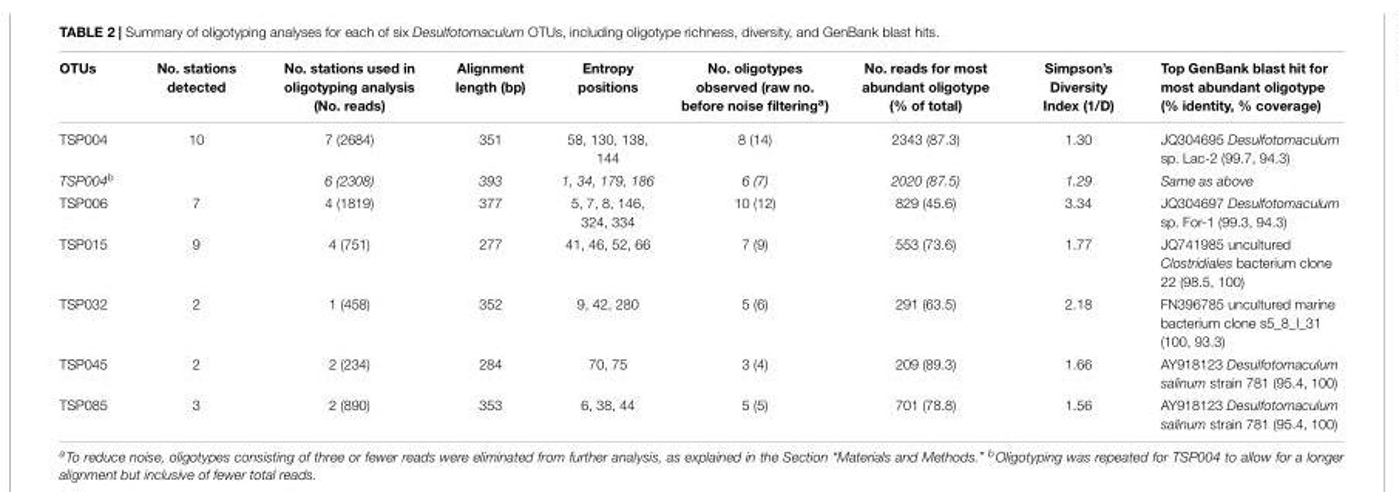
<table><thead><tr><td>OTUs</td><td>No. stations detected</td><td>No. stations used in oligotyping analysis (No. reads)</td><td>Alignment length (bp)</td><td>Entropy positions</td><td>No. oligotypes observed (raw no. before noise filtering<sup>a</sup>)</td><td>No. reads for most abundant oligotype (% of total)</td><td>Simpson’s Diversity Index (1/D)</td><td>Top GenBank blast hit for most abundant oligotype (% identity, % coverage)</td></tr></thead><tbody><tr><td>TSP004</td><td>10</td><td>7 (2684)</td><td>351</td><td>58, 130, 138, 144</td><td>8 (14)</td><td>2343 (87.3)</td><td>1.30</td><td>JQ304695 Desulfotomaculum sp. Lac-2 (99.7, 94.3)</td></tr><tr><td>TSP004<sup>b</sup></td><td></td><td>6 (2308)</td><td>393</td><td>1, 34, 179, 186</td><td>6 (7)</td><td>2020 (87.5)</td><td>1.29</td><td>Same as above</td></tr><tr><td>TSP006</td><td>7</td><td>4 (1819)</td><td>377</td><td>5, 7, 8, 146, 324, 334</td><td>10 (12)</td><td>829 (45.6)</td><td>3.34</td><td>JQ304697 Desulfotomaculum sp. For-1 (99.3, 94.3)</td></tr><tr><td>TSP015</td><td>9</td><td>4 (751)</td><td>277</td><td>41, 46, 52, 66</td><td>7 (9)</td><td>553 (73.6)</td><td>1.77</td><td>JQ741985 uncultured Clostridiales bacterium clone 22 (98.5, 100)</td></tr><tr><td>TSP032</td><td>2</td><td>1 (458)</td><td>352</td><td>9, 42, 280</td><td>5 (6)</td><td>291 (63.5)</td><td>2.18</td><td>FN396785 uncultured marine bacterium clone s5_8_I_31 (100, 93.3)</td></tr><tr><td>TSP045</td><td>2</td><td>2 (234)</td><td>284</td><td>70, 75</td><td>3 (4)</td><td>209 (89.3)</td><td>1.66</td><td>AY918123 Desulfotomaculum salinum strain 781 (95.4, 100)</td></tr><tr><td>TSP085</td><td>3</td><td>2 (890)</td><td>353</td><td>6, 38, 44</td><td>5 (5)</td><td>701 (78.8)</td><td>1.56</td><td>AY918123 Desulfotomaculum salinum strain 781 (95.4, 100)</td></tr></tbody></table>